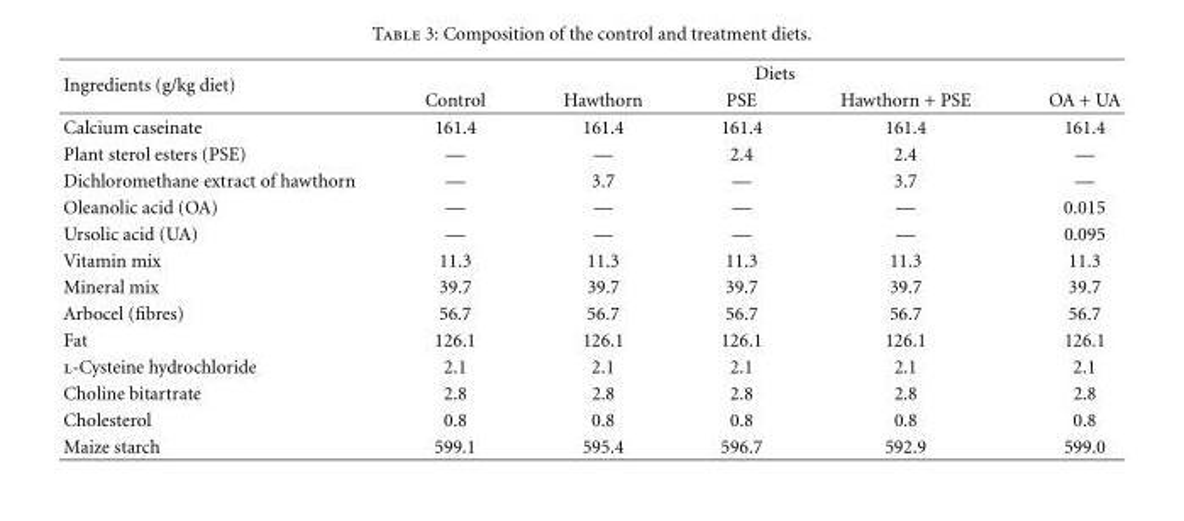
<table><thead><tr><td rowspan="2">Ingredients (g/kg diet)</td><td colspan="5">Diets</td></tr><tr><td>Control</td><td>Hawthorn</td><td>PSE</td><td>Hawthorn + PSE</td><td>OA + UA</td></tr></thead><tbody><tr><td>Calcium caseinate</td><td>161.4</td><td>161.4</td><td>161.4</td><td>161.4</td><td>161.4</td></tr><tr><td>Plant sterol esters (PSE)</td><td>—</td><td>—</td><td>2.4</td><td>2.4</td><td>—</td></tr><tr><td>Dichloromethane extract of hawthorn</td><td>—</td><td>3.7</td><td>—</td><td>3.7</td><td>—</td></tr><tr><td>Oleanolic acid (OA)</td><td>—</td><td>—</td><td>—</td><td>—</td><td>0.015</td></tr><tr><td>Ursolic acid (UA)</td><td>—</td><td>—</td><td>—</td><td>—</td><td>0.095</td></tr><tr><td>Vitamin mix</td><td>11.3</td><td>11.3</td><td>11.3</td><td>11.3</td><td>11.3</td></tr><tr><td>Mineral mix</td><td>39.7</td><td>39.7</td><td>39.7</td><td>39.7</td><td>39.7</td></tr><tr><td>Arbocel (fibres)</td><td>56.7</td><td>56.7</td><td>56.7</td><td>56.7</td><td>56.7</td></tr><tr><td>Fat</td><td>126.1</td><td>126.1</td><td>126.1</td><td>126.1</td><td>126.1</td></tr><tr><td>l-Cysteine hydrochloride</td><td>2.1</td><td>2.1</td><td>2.1</td><td>2.1</td><td>2.1</td></tr><tr><td>Choline bitartrate</td><td>2.8</td><td>2.8</td><td>2.8</td><td>2.8</td><td>2.8</td></tr><tr><td>Cholesterol</td><td>0.8</td><td>0.8</td><td>0.8</td><td>0.8</td><td>0.8</td></tr><tr><td>Maize starch</td><td>599.1</td><td>595.4</td><td>596.7</td><td>592.9</td><td>599.0</td></tr></tbody></table>